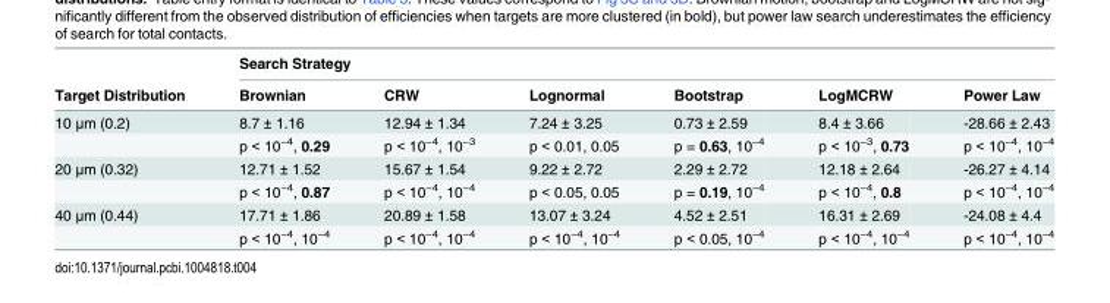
<table><thead><tr><td rowspan="2">Target Distribution</td><td colspan="6">Search Strategy</td></tr><tr><td>Brownian</td><td>CRW</td><td>Lognormal</td><td>Bootstrap</td><td>LogMCRW</td><td>Power Law</td></tr></thead><tbody><tr><td rowspan="2">10 μm (0.2)</td><td>8.7 ± 1.16</td><td>12.94 ± 1.34</td><td>7.24 ± 3.25</td><td>0.73 ± 2.59</td><td>8.4 ± 3.66</td><td>-28.66 ± 2.43</td></tr><tr><td>p &lt; 10<sup>−4</sup>, 0.29</td><td>p &lt; 10<sup>−4</sup>, 10<sup>−3</sup></td><td>p &lt; 0.01, 0.05</td><td>p = 0.63, 10<sup>−4</sup></td><td>p &lt; 10<sup>−3</sup>, 0.73</td><td>p &lt; 10<sup>−4</sup>, 10<sup>−4</sup></td></tr><tr><td rowspan="2">20 μm (0.32)</td><td>12.71 ± 1.52</td><td>15.67 ± 1.54</td><td>9.22 ± 2.72</td><td>2.29 ± 2.72</td><td>12.18 ± 2.64</td><td>-26.27 ± 4.14</td></tr><tr><td>p &lt; 10<sup>−4</sup>, 0.87</td><td>p &lt; 10<sup>−4</sup>, 10<sup>−4</sup></td><td>p &lt; 0.05, 0.05</td><td>p = 0.19, 10<sup>−4</sup></td><td>p &lt; 10<sup>−4</sup>, 0.8</td><td>p &lt; 10<sup>−4</sup>, 10<sup>−4</sup></td></tr><tr><td rowspan="2">40 μm (0.44)</td><td>17.71 ± 1.86</td><td>20.89 ± 1.58</td><td>13.07 ± 3.24</td><td>4.52 ± 2.51</td><td>16.31 ± 2.69</td><td>-24.08 ± 4.4</td></tr><tr><td>p &lt; 10<sup>−4</sup>, 10<sup>−4</sup></td><td>p &lt; 10<sup>−4</sup>, 10<sup>−4</sup></td><td>p &lt; 10<sup>−4</sup>, 10<sup>−4</sup></td><td>p &lt; 0.05, 10<sup>−4</sup></td><td>p &lt; 10<sup>−4</sup>, 10<sup>−4</sup></td><td>p &lt; 10<sup>−4</sup>, 10<sup>−4</sup></td></tr></tbody></table>